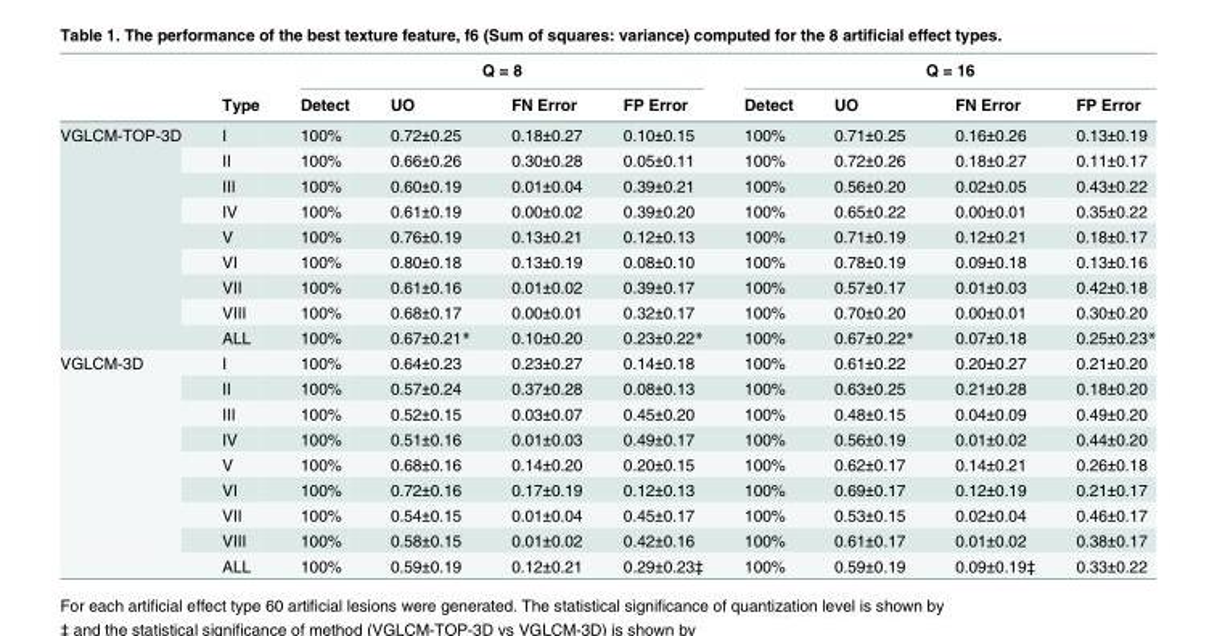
<table><thead><tr><td rowspan="2"></td><td rowspan="2">Type</td><td colspan="4">Q = 8</td><td colspan="4">Q = 16</td></tr><tr><td>Detect</td><td>UO</td><td>FN Error</td><td>FP Error</td><td>Detect</td><td>UO</td><td>FN Error</td><td>FP Error</td></tr></thead><tbody><tr><td rowspan="9">VGLCM-TOP-3D</td><td>I</td><td>100%</td><td>0.72±0.25</td><td>0.18±0.27</td><td>0.10±0.15</td><td>100%</td><td>0.71±0.25</td><td>0.16±0.26</td><td>0.13±0.19</td></tr><tr><td>II</td><td>100%</td><td>0.66±0.26</td><td>0.30±0.28</td><td>0.05±0.11</td><td>100%</td><td>0.72±0.26</td><td>0.18±0.27</td><td>0.11±0.17</td></tr><tr><td>III</td><td>100%</td><td>0.60±0.19</td><td>0.01±0.04</td><td>0.39±0.21</td><td>100%</td><td>0.56±0.20</td><td>0.02±0.05</td><td>0.43±0.22</td></tr><tr><td>IV</td><td>100%</td><td>0.61±0.19</td><td>0.00±0.02</td><td>0.39±0.20</td><td>100%</td><td>0.65±0.22</td><td>0.00±0.01</td><td>0.35±0.22</td></tr><tr><td>V</td><td>100%</td><td>0.76±0.19</td><td>0.13±0.21</td><td>0.12±0.13</td><td>100%</td><td>0.71±0.19</td><td>0.12±0.21</td><td>0.18±0.17</td></tr><tr><td>VI</td><td>100%</td><td>0.80±0.18</td><td>0.13±0.19</td><td>0.08±0.10</td><td>100%</td><td>0.78±0.19</td><td>0.09±0.18</td><td>0.13±0.16</td></tr><tr><td>VII</td><td>100%</td><td>0.61±0.16</td><td>0.01±0.02</td><td>0.39±0.17</td><td>100%</td><td>0.57±0.17</td><td>0.01±0.03</td><td>0.42±0.18</td></tr><tr><td>VIII</td><td>100%</td><td>0.68±0.17</td><td>0.00±0.01</td><td>0.32±0.17</td><td>100%</td><td>0.70±0.20</td><td>0.00±0.01</td><td>0.30±0.20</td></tr><tr><td>ALL</td><td>100%</td><td>0.67±0.21*</td><td>0.10±0.20</td><td>0.23±0.22*</td><td>100%</td><td>0.67±0.22*</td><td>0.07±0.18</td><td>0.25±0.23*</td></tr><tr><td rowspan="9">VGLCM-3D</td><td>I</td><td>100%</td><td>0.64±0.23</td><td>0.23±0.27</td><td>0.14±0.18</td><td>100%</td><td>0.61±0.22</td><td>0.20±0.27</td><td>0.21±0.20</td></tr><tr><td>II</td><td>100%</td><td>0.57±0.24</td><td>0.37±0.28</td><td>0.08±0.13</td><td>100%</td><td>0.63±0.25</td><td>0.21±0.28</td><td>0.18±0.20</td></tr><tr><td>III</td><td>100%</td><td>0.52±0.15</td><td>0.03±0.07</td><td>0.45±0.20</td><td>100%</td><td>0.48±0.15</td><td>0.04±0.09</td><td>0.49±0.20</td></tr><tr><td>IV</td><td>100%</td><td>0.51±0.16</td><td>0.01±0.03</td><td>0.49±0.17</td><td>100%</td><td>0.56±0.19</td><td>0.01±0.02</td><td>0.44±0.20</td></tr><tr><td>V</td><td>100%</td><td>0.68±0.16</td><td>0.14±0.20</td><td>0.20±0.15</td><td>100%</td><td>0.62±0.17</td><td>0.14±0.21</td><td>0.26±0.18</td></tr><tr><td>VI</td><td>100%</td><td>0.72±0.16</td><td>0.17±0.19</td><td>0.12±0.13</td><td>100%</td><td>0.69±0.17</td><td>0.12±0.19</td><td>0.21±0.17</td></tr><tr><td>VII</td><td>100%</td><td>0.54±0.15</td><td>0.01±0.04</td><td>0.45±0.17</td><td>100%</td><td>0.53±0.15</td><td>0.02±0.04</td><td>0.46±0.17</td></tr><tr><td>VIII</td><td>100%</td><td>0.58±0.15</td><td>0.01±0.02</td><td>0.42±0.16</td><td>100%</td><td>0.61±0.17</td><td>0.01±0.02</td><td>0.38±0.17</td></tr><tr><td>ALL</td><td>100%</td><td>0.59±0.19</td><td>0.12±0.21</td><td>0.29±0.23‡</td><td>100%</td><td>0.59±0.19</td><td>0.09±0.19‡</td><td>0.33±0.22</td></tr></tbody></table>